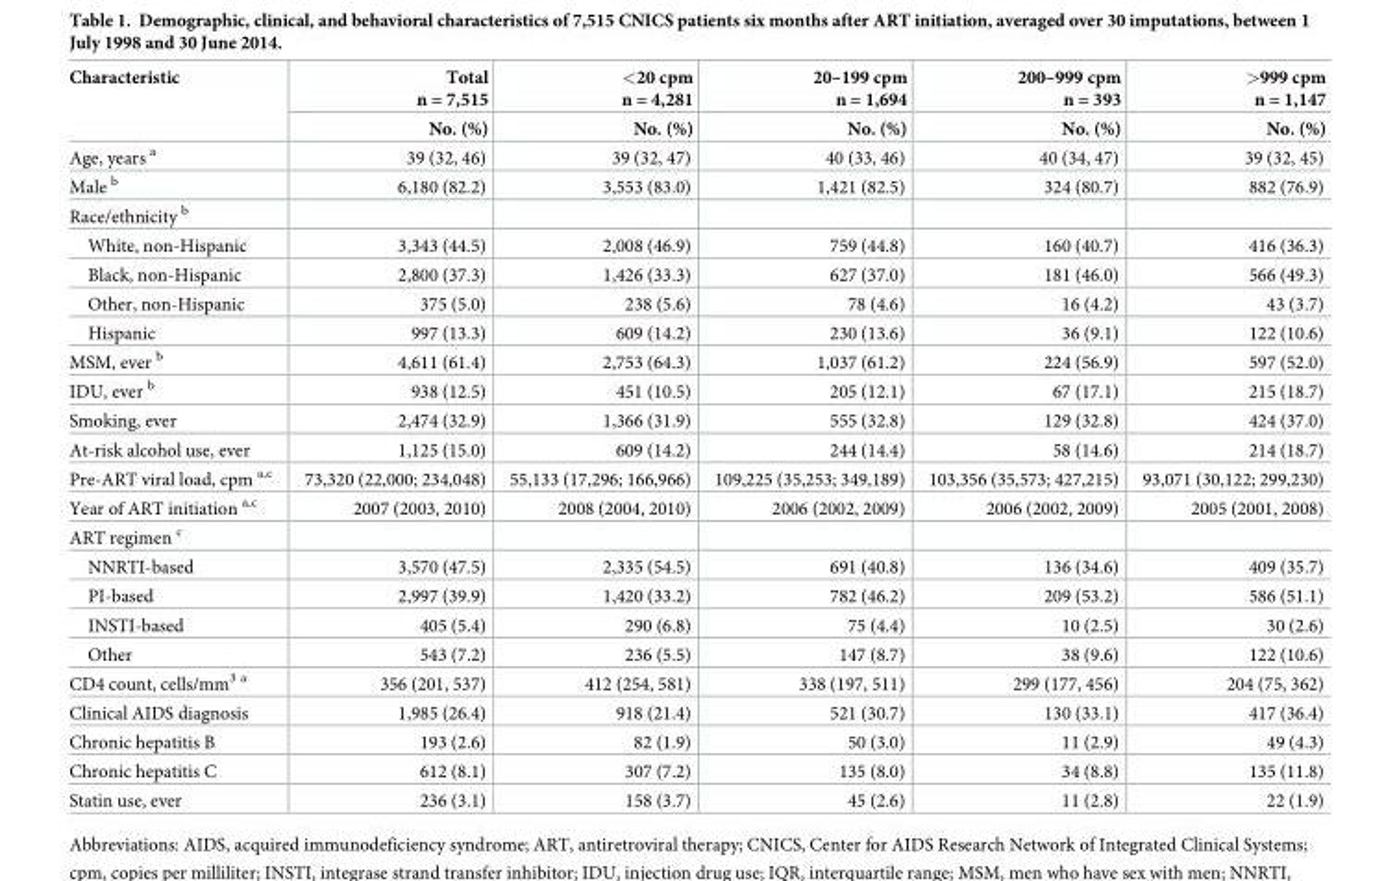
<table><thead><tr><td rowspan="2">Characteristic</td><td rowspan="2">Total n = 7,515 No. (%)</td><td rowspan="2">&lt;20 cpm n = 4,281 No. (%)</td><td rowspan="2">20–199 cpm n = 1,694 No. (%)</td><td rowspan="2">200–999 cpm n = 393 No. (%)</td><td rowspan="2">&gt;999 cpm n = 1,147 No. (%)</td></tr><tr></tr></thead><tbody><tr><td>Age, years <sup>a</sup></td><td>39 (32, 46)</td><td>39 (32, 47)</td><td>40 (33, 46)</td><td>40 (34, 47)</td><td>39 (32, 45)</td></tr><tr><td>Male <sup>b</sup></td><td>6,180 (82.2)</td><td>3,553 (83.0)</td><td>1,421 (82.5)</td><td>324 (80.7)</td><td>882 (76.9)</td></tr><tr><td colspan="6">Race/ethnicity <sup>b</sup></td></tr><tr><td>White, non-Hispanic</td><td>3,343 (44.5)</td><td>2,008 (46.9)</td><td>759 (44.8)</td><td>160 (40.7)</td><td>416 (36.3)</td></tr><tr><td>Black, non-Hispanic</td><td>2,800 (37.3)</td><td>1,426 (33.3)</td><td>627 (37.0)</td><td>181 (46.0)</td><td>566 (49.3)</td></tr><tr><td>Other, non-Hispanic</td><td>375 (5.0)</td><td>238 (5.6)</td><td>78 (4.6)</td><td>16 (4.2)</td><td>43 (3.7)</td></tr><tr><td>Hispanic</td><td>997 (13.3)</td><td>609 (14.2)</td><td>230 (13.6)</td><td>36 (9.1)</td><td>122 (10.6)</td></tr><tr><td>MSM, ever <sup>b</sup></td><td>4,611 (61.4)</td><td>2,753 (64.3)</td><td>1,037 (61.2)</td><td>224 (56.9)</td><td>597 (52.0)</td></tr><tr><td>IDU, ever <sup>b</sup></td><td>938 (12.5)</td><td>451 (10.5)</td><td>205 (12.1)</td><td>67 (17.1)</td><td>215 (18.7)</td></tr><tr><td>Smoking, ever</td><td>2,474 (32.9)</td><td>1,366 (31.9)</td><td>555 (32.8)</td><td>129 (32.8)</td><td>424 (37.0)</td></tr><tr><td>At-risk alcohol use, ever</td><td>1,125 (15.0)</td><td>609 (14.2)</td><td>244 (14.4)</td><td>58 (14.6)</td><td>214 (18.7)</td></tr><tr><td>Pre-ART viral load, cpm <sup>a,c</sup></td><td>73,320 (22,000; 234,048)</td><td>55,133 (17,296; 166,966)</td><td>109,225 (35,253; 349,189)</td><td>103,356 (35,573; 427,215)</td><td>93,071 (30,122; 299,230)</td></tr><tr><td>Year of ART initiation <sup>a,c</sup></td><td>2007 (2003, 2010)</td><td>2008 (2004, 2010)</td><td>2006 (2002, 2009)</td><td>2006 (2002, 2009)</td><td>2005 (2001, 2008)</td></tr><tr><td colspan="6">ART regimen <sup>c</sup></td></tr><tr><td>NNRTI-based</td><td>3,570 (47.5)</td><td>2,335 (54.5)</td><td>691 (40.8)</td><td>136 (34.6)</td><td>409 (35.7)</td></tr><tr><td>PI-based</td><td>2,997 (39.9)</td><td>1,420 (33.2)</td><td>782 (46.2)</td><td>209 (53.2)</td><td>586 (51.1)</td></tr><tr><td>INSTI-based</td><td>405 (5.4)</td><td>290 (6.8)</td><td>75 (4.4)</td><td>10 (2.5)</td><td>30 (2.6)</td></tr><tr><td>Other</td><td>543 (7.2)</td><td>236 (5.5)</td><td>147 (8.7)</td><td>38 (9.6)</td><td>122 (10.6)</td></tr><tr><td>CD4 count, cells/mm<sup>3 a</sup></td><td>356 (201, 537)</td><td>412 (254, 581)</td><td>338 (197, 511)</td><td>299 (177, 456)</td><td>204 (75, 362)</td></tr><tr><td>Clinical AIDS diagnosis</td><td>1,985 (26.4)</td><td>918 (21.4)</td><td>521 (30.7)</td><td>130 (33.1)</td><td>417 (36.4)</td></tr><tr><td>Chronic hepatitis B</td><td>193 (2.6)</td><td>82 (1.9)</td><td>50 (3.0)</td><td>11 (2.9)</td><td>49 (4.3)</td></tr><tr><td>Chronic hepatitis C</td><td>612 (8.1)</td><td>307 (7.2)</td><td>135 (8.0)</td><td>34 (8.8)</td><td>135 (11.8)</td></tr><tr><td>Statin use, ever</td><td>236 (3.1)</td><td>158 (3.7)</td><td>45 (2.6)</td><td>11 (2.8)</td><td>22 (1.9)</td></tr></tbody></table>